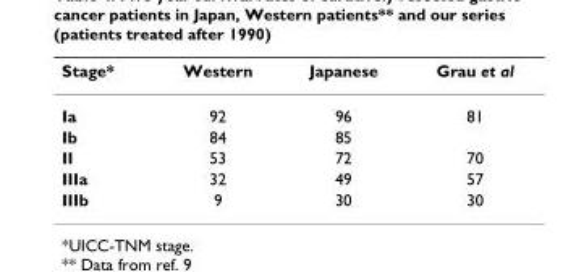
<table><thead><tr><td>Stage*</td><td>Western</td><td>Japanese</td><td>Grau et al</td></tr></thead><tbody><tr><td>Ia</td><td>92</td><td>96</td><td>81</td></tr><tr><td>Ib</td><td>84</td><td>85</td><td></td></tr><tr><td>II</td><td>53</td><td>72</td><td>70</td></tr><tr><td>IIIa</td><td>32</td><td>49</td><td>57</td></tr><tr><td>IIIb</td><td>9</td><td>30</td><td>30</td></tr></tbody></table>